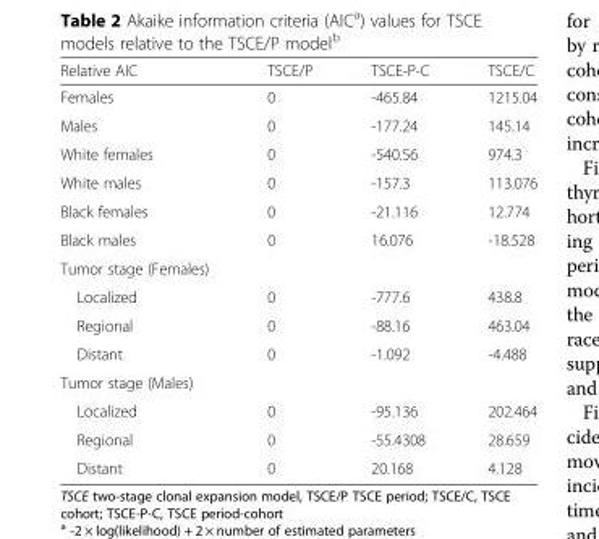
<table><thead><tr><td>Relative AIC</td><td>TSCE/P</td><td>TSCE-P-C</td><td>TSCE/C</td></tr></thead><tbody><tr><td>Females</td><td>0</td><td>-465.84</td><td>1215.04</td></tr><tr><td>Males</td><td>0</td><td>-177.24</td><td>145.14</td></tr><tr><td>White females</td><td>0</td><td>-540.56</td><td>974.3</td></tr><tr><td>White males</td><td>0</td><td>-157.3</td><td>113.076</td></tr><tr><td>Black females</td><td>0</td><td>-21.116</td><td>12.774</td></tr><tr><td>Black males</td><td>0</td><td>16.076</td><td>-18.528</td></tr><tr><td colspan="4">Tumor stage (Females)</td></tr><tr><td>Localized</td><td>0</td><td>-777.6</td><td>438.8</td></tr><tr><td>Regional</td><td>0</td><td>-88.16</td><td>463.04</td></tr><tr><td>Distant</td><td>0</td><td>-1.092</td><td>-4.488</td></tr><tr><td colspan="4">Tumor stage (Males)</td></tr><tr><td>Localized</td><td>0</td><td>-95.136</td><td>202.464</td></tr><tr><td>Regional</td><td>0</td><td>-55.4308</td><td>28.659</td></tr><tr><td>Distant</td><td>0</td><td>20.168</td><td>4.128</td></tr></tbody></table>